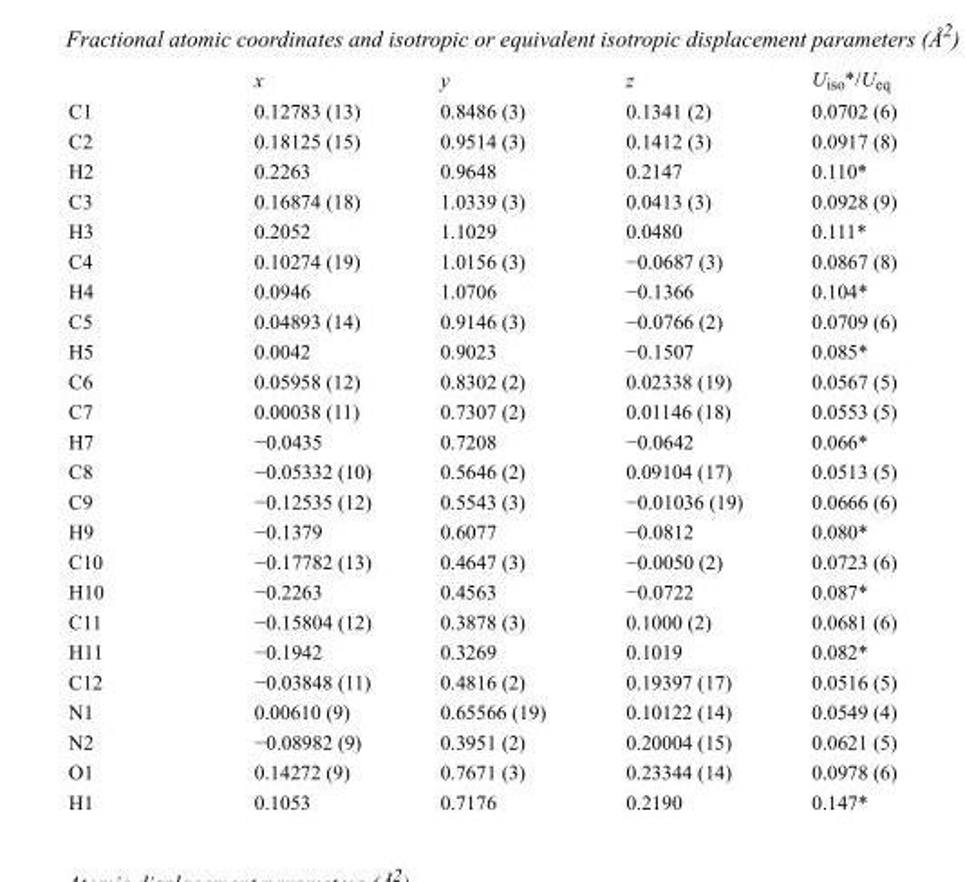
<table><thead><tr><td></td><td>x</td><td>y</td><td>z</td><td>U<sub>iso</sub>*/U<sub>eq</sub></td></tr></thead><tbody><tr><td>C1</td><td>0.12783 (13)</td><td>0.8486 (3)</td><td>0.1341 (2)</td><td>0.0702 (6)</td></tr><tr><td>C2</td><td>0.18125 (15)</td><td>0.9514 (3)</td><td>0.1412 (3)</td><td>0.0917 (8)</td></tr><tr><td>H2</td><td>0.2263</td><td>0.9648</td><td>0.2147</td><td>0.110*</td></tr><tr><td>C3</td><td>0.16874 (18)</td><td>1.0339 (3)</td><td>0.0413 (3)</td><td>0.0928 (9)</td></tr><tr><td>H3</td><td>0.2052</td><td>1.1029</td><td>0.0480</td><td>0.111*</td></tr><tr><td>C4</td><td>0.10274 (19)</td><td>1.0156 (3)</td><td>−0.0687 (3)</td><td>0.0867 (8)</td></tr><tr><td>H4</td><td>0.0946</td><td>1.0706</td><td>−0.1366</td><td>0.104*</td></tr><tr><td>C5</td><td>0.04893 (14)</td><td>0.9146 (3)</td><td>−0.0766 (2)</td><td>0.0709 (6)</td></tr><tr><td>H5</td><td>0.0042</td><td>0.9023</td><td>−0.1507</td><td>0.085*</td></tr><tr><td>C6</td><td>0.05958 (12)</td><td>0.8302 (2)</td><td>0.02338 (19)</td><td>0.0567 (5)</td></tr><tr><td>C7</td><td>0.00038 (11)</td><td>0.7307 (2)</td><td>0.01146 (18)</td><td>0.0553 (5)</td></tr><tr><td>H7</td><td>−0.0435</td><td>0.7208</td><td>−0.0642</td><td>0.066*</td></tr><tr><td>C8</td><td>−0.05332 (10)</td><td>0.5646 (2)</td><td>0.09104 (17)</td><td>0.0513 (5)</td></tr><tr><td>C9</td><td>−0.12535 (12)</td><td>0.5543 (3)</td><td>−0.01036 (19)</td><td>0.0666 (6)</td></tr><tr><td>H9</td><td>−0.1379</td><td>0.6077</td><td>−0.0812</td><td>0.080*</td></tr><tr><td>C10</td><td>−0.17782 (13)</td><td>0.4647 (3)</td><td>−0.0050 (2)</td><td>0.0723 (6)</td></tr><tr><td>H10</td><td>−0.2263</td><td>0.4563</td><td>−0.0722</td><td>0.087*</td></tr><tr><td>C11</td><td>−0.15804 (12)</td><td>0.3878 (3)</td><td>0.1000 (2)</td><td>0.0681 (6)</td></tr><tr><td>H11</td><td>−0.1942</td><td>0.3269</td><td>0.1019</td><td>0.082*</td></tr><tr><td>C12</td><td>−0.03848 (11)</td><td>0.4816 (2)</td><td>0.19397 (17)</td><td>0.0516 (5)</td></tr><tr><td>N1</td><td>0.00610 (9)</td><td>0.65566 (19)</td><td>0.10122 (14)</td><td>0.0549 (4)</td></tr><tr><td>N2</td><td>−0.08982 (9)</td><td>0.3951 (2)</td><td>0.20004 (15)</td><td>0.0621 (5)</td></tr><tr><td>O1</td><td>0.14272 (9)</td><td>0.7671 (3)</td><td>0.23344 (14)</td><td>0.0978 (6)</td></tr><tr><td>H1</td><td>0.1053</td><td>0.7176</td><td>0.2190</td><td>0.147*</td></tr></tbody></table>